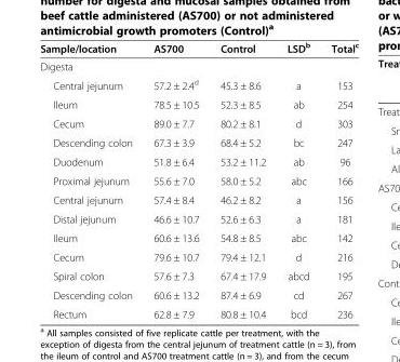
<table><thead><tr><td>Sample/location</td><td>AS700</td><td>Control</td><td>LSD<sup>b</sup></td><td>Total<sup>c</sup></td></tr></thead><tbody><tr><td colspan="5">Digesta</td></tr><tr><td>Central jejunum</td><td>57.2 ± 2.4<sup>d</sup></td><td>45.3 ± 8.6</td><td>a</td><td>153</td></tr><tr><td>Ileum</td><td>78.5 ± 10.5</td><td>52.3 ± 8.5</td><td>ab</td><td>254</td></tr><tr><td>Cecum</td><td>89.0 ± 7.7</td><td>80.2 ± 8.1</td><td>d</td><td>303</td></tr><tr><td>Descending colon</td><td>67.3 ± 3.9</td><td>68.4 ± 5.2</td><td>bc</td><td>247</td></tr><tr><td>Duodenum</td><td>51.8 ± 6.4</td><td>53.2 ± 11.2</td><td>ab</td><td>96</td></tr><tr><td>Proximal jejunum</td><td>55.6 ± 7.0</td><td>58.0 ± 5.2</td><td>abc</td><td>166</td></tr><tr><td>Central jejunum</td><td>57.4 ± 8.4</td><td>46.2 ± 8.2</td><td>a</td><td>156</td></tr><tr><td>Distal jejunum</td><td>46.6 ± 10.7</td><td>52.6 ± 6.3</td><td>a</td><td>181</td></tr><tr><td>Ileum</td><td>60.6 ± 13.6</td><td>54.8 ± 8.5</td><td>abc</td><td>142</td></tr><tr><td>Cecum</td><td>79.6 ± 10.7</td><td>79.4 ± 12.1</td><td>d</td><td>216</td></tr><tr><td>Spiral colon</td><td>57.6 ± 7.3</td><td>67.4 ± 17.9</td><td>abcd</td><td>195</td></tr><tr><td>Descending colon</td><td>60.6 ± 13.2</td><td>87.4 ± 6.9</td><td>cd</td><td>267</td></tr><tr><td>Rectum</td><td>62.8 ± 7.9</td><td>80.8 ± 10.4</td><td>bcd</td><td>236</td></tr></tbody></table>